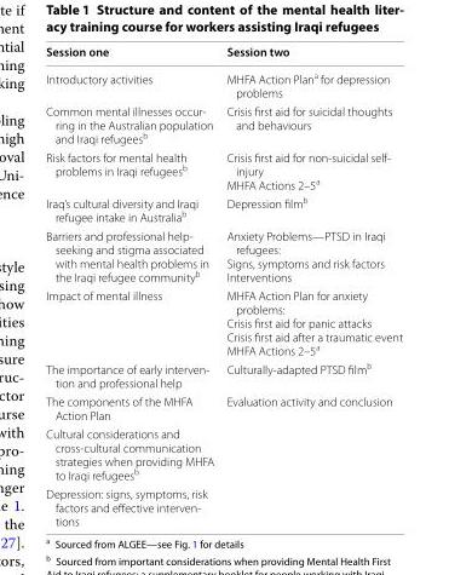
<table><thead><tr><td>Session one</td><td>Session two</td></tr></thead><tbody><tr><td>Introductory activities</td><td>MHFA Action Plan<sup>a</sup> for depression problems</td></tr><tr><td>Common mental illnesses occur‑ ring in the Australian population and Iraqi refugeesb</td><td>Crisis first aid for suicidal thoughts and behaviours</td></tr><tr><td>Risk factors for mental health problems in Iraqi refugees<sup>b</sup></td><td>Crisis first aid for non‑suicidal self‑ injury MHFA Actions 2–5<sup>a</sup></td></tr><tr><td>Iraq’s cultural diversity and Iraqi refugee intake in Australia<sup>b</sup></td><td>Depression film<sup>b</sup></td></tr><tr><td>Barriers and professional help‑ seeking and stigma associated with mental health problems in the Iraqi refugee community<sup>b</sup></td><td>Anxiety Problems—PTSD in Iraqi refugees: Signs, symptoms and risk factors Interventions</td></tr><tr><td>Impact of mental illness</td><td>MHFA Action Plan for anxiety problems: Crisis first aid for panic attacks Crisis first aid after a traumatic event MHFA Actions 2–5<sup>a</sup></td></tr><tr><td>The importance of early interven‑ tion and professional help</td><td>Culturally‑adapted PTSD film<sup>b</sup></td></tr><tr><td>The components of the MHFA Action Plan</td><td>Evaluation activity and conclusion</td></tr><tr><td colspan="2">Cultural considerations and cross‑cultural communication strategies when providing MHFA to Iraqi refugees<sup>b</sup></td></tr><tr><td>Depression: signs, symptoms, risk factors and effective interven‑ tions</td><td></td></tr></tbody></table>